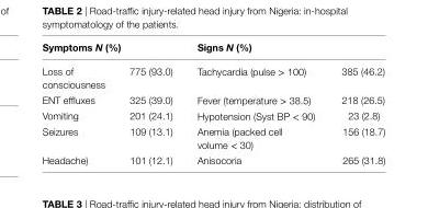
<table><thead><tr><td colspan="2">symptoms N (%)</td><td colspan="2">signs N (%)</td></tr><tr><td>Loss of consciousness</td><td>775 (93.0)</td><td>Tachycardia (pulse &gt; 100)</td><td>385 (46.2)</td></tr></thead><tbody><tr><td>ENT effluxes</td><td>325 (39.0)</td><td>Fever (temperature &gt; 38.5)</td><td>218 (26.5)</td></tr><tr><td>Vomiting</td><td>201 (24.1)</td><td>Hypotension (Syst BP &lt; 90)</td><td>23 (2.8)</td></tr><tr><td>Seizures</td><td>109 (13.1)</td><td>Anemia (packed cell volume &lt; 30)</td><td>156 (18.7)</td></tr><tr><td>Headache)</td><td>101 (12.1)</td><td>Anisocoria</td><td>265 (31.8)</td></tr></tbody></table>